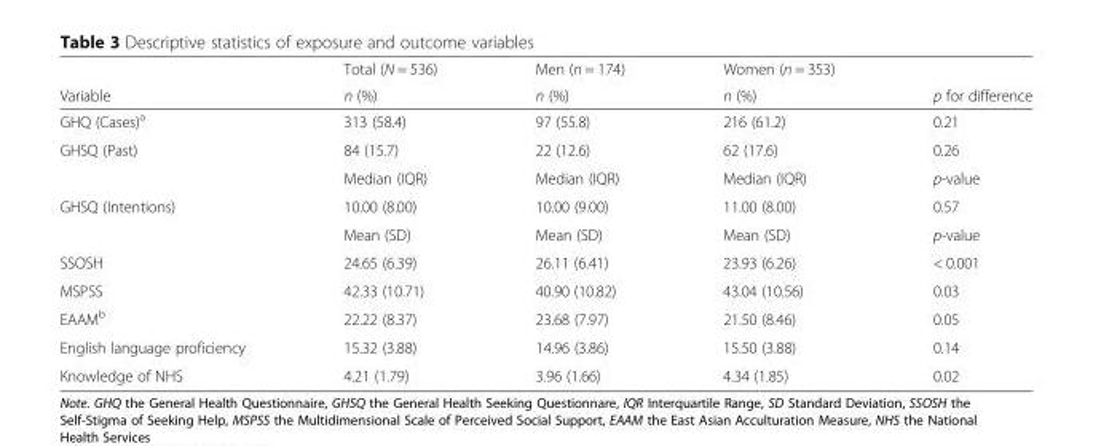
<table><thead><tr><td rowspan="2">Variable</td><td rowspan="2">Total (N = 536) n (%)</td><td rowspan="2">Men (n = 174) n (%)</td><td rowspan="2">Women (n = 353) n (%)</td><td rowspan="2">p for difference</td></tr><tr></tr></thead><tbody><tr><td>GHQ (Cases)<sup>a</sup></td><td>313 (58.4)</td><td>97 (55.8)</td><td>216 (61.2)</td><td>0.21</td></tr><tr><td rowspan="2">GHSQ (Past)</td><td>84 (15.7)</td><td>22 (12.6)</td><td>62 (17.6)</td><td>0.26</td></tr><tr><td>Median (IQR)</td><td>Median (IQR)</td><td>Median (IQR)</td><td>p-value</td></tr><tr><td rowspan="2">GHSQ (Intentions)</td><td>10.00 (8.00)</td><td>10.00 (9.00)</td><td>11.00 (8.00)</td><td>0.57</td></tr><tr><td>Mean (SD)</td><td>Mean (SD)</td><td>Mean (SD)</td><td>p-value</td></tr><tr><td>SSOSH</td><td>24.65 (6.39)</td><td>26.11 (6.41)</td><td>23.93 (6.26)</td><td>&lt; 0.001</td></tr><tr><td>MSPSS</td><td>42.33 (10.71)</td><td>40.90 (10.82)</td><td>43.04 (10.56)</td><td>0.03</td></tr><tr><td>EAAM<sup>b</sup></td><td>22.22 (8.37)</td><td>23.68 (7.97)</td><td>21.50 (8.46)</td><td>0.05</td></tr><tr><td>English language proficiency</td><td>15.32 (3.88)</td><td>14.96 (3.86)</td><td>15.50 (3.88)</td><td>0.14</td></tr><tr><td>Knowledge of NHS</td><td>4.21 (1.79)</td><td>3.96 (1.66)</td><td>4.34 (1.85)</td><td>0.02</td></tr></tbody></table>